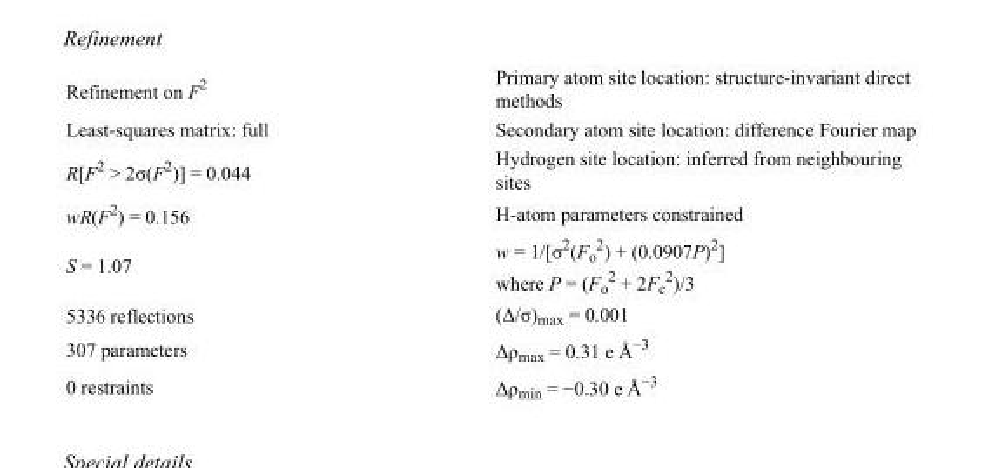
<table><tbody><tr><td>Refinement on F<sup>2</sup></td><td>Primary atom site location: structure-invariant direct methods</td></tr><tr><td>Least-squares matrix: full</td><td>Secondary atom site location: difference Fourier map</td></tr><tr><td>R[F<sup>2</sup> &gt; 2σ(F<sup>2</sup>)] = 0.044</td><td>Hydrogen site location: inferred from neighbouring sites</td></tr><tr><td>wR(F<sup>2</sup>) = 0.156</td><td>H-atom parameters constrained</td></tr><tr><td>S = 1.07</td><td>w = 1/[σ<sup>2</sup>(F<sub>o</sub> <sup>2</sup>) + (0.0907P)<sup>2</sup>] where P = (F<sub>o</sub> <sup>2</sup> + 2F<sub>c</sub> <sup>2</sup>)/3</td></tr><tr><td>5336 reflections</td><td>(Δ/σ)<sub>max</sub> = 0.001</td></tr><tr><td>307 parameters</td><td>Δρ<sub>max</sub> = 0.31 e Å<sup>−3</sup></td></tr><tr><td>0 restraints</td><td>Δρ<sub>min</sub> = −0.30 e Å<sup>−3</sup></td></tr></tbody></table>